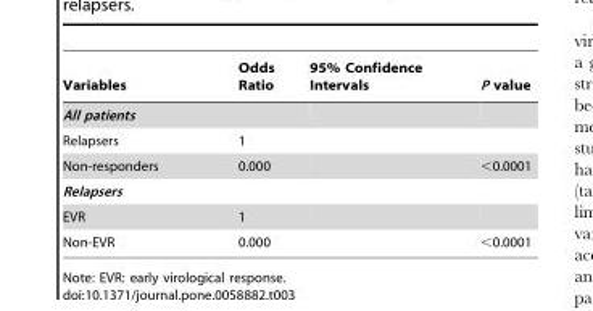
<table><thead><tr><td>Variables</td><td>Odds Ratio</td><td>95% Confidence Intervals</td><td>P value</td></tr></thead><tbody><tr><td colspan="4">All patients</td></tr><tr><td>Relapsers</td><td>1</td><td></td><td></td></tr><tr><td>Non-responders</td><td>0.000</td><td></td><td>&lt;0.0001</td></tr><tr><td colspan="4">Relapsers</td></tr><tr><td>EVR</td><td>1</td><td></td><td></td></tr><tr><td>Non-EVR</td><td>0.000</td><td></td><td>&lt;0.0001</td></tr></tbody></table>